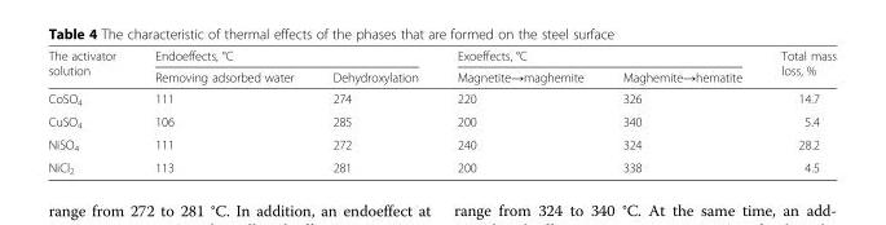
<table><thead><tr><td rowspan="2">The activator solution</td><td colspan="2">Endoeffects, °C</td><td colspan="2">Exoeffects, °C</td><td rowspan="2">Total mass loss, %</td></tr><tr><td>Removing adsorbed water</td><td>Dehydroxylation</td><td>Magnetite→maghemite</td><td>Maghemite→hematite</td></tr></thead><tbody><tr><td>CoSO<sub>4</sub></td><td>111</td><td>274</td><td>220</td><td>326</td><td>14.7</td></tr><tr><td>CuSO<sub>4</sub></td><td>106</td><td>285</td><td>200</td><td>340</td><td>5.4</td></tr><tr><td>NiSO<sub>4</sub></td><td>111</td><td>272</td><td>240</td><td>324</td><td>28.2</td></tr><tr><td>NiCl<sub>2</sub></td><td>113</td><td>281</td><td>200</td><td>338</td><td>4.5</td></tr></tbody></table>